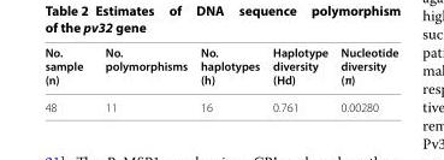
<table><thead><tr><td>No. sample (n)</td><td>No. polymorphisms</td><td>No. haplotypes (h)</td><td>Haplotype diversity (Hd)</td><td>Nucleotide diversity (π)</td></tr></thead><tbody><tr><td>48</td><td>11</td><td>16</td><td>0.761</td><td>0.00280</td></tr></tbody></table>